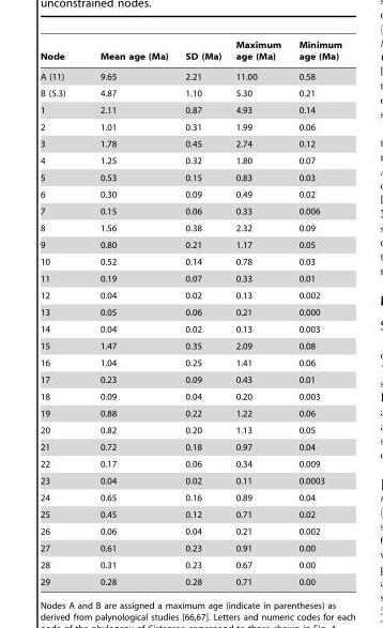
<table><thead><tr><td>Node</td><td>Mean age (Ma)</td><td>SD (Ma)</td><td>Maximum age (Ma)</td><td>Minimum age (Ma)</td></tr></thead><tbody><tr><td>A (11)</td><td>9.65</td><td>2.21</td><td>11.00</td><td>0.58</td></tr><tr><td>B (5.3)</td><td>4.87</td><td>1.10</td><td>5.30</td><td>0.21</td></tr><tr><td>1</td><td>2.11</td><td>0.87</td><td>4.93</td><td>0.14</td></tr><tr><td>2</td><td>1.01</td><td>0.31</td><td>1.99</td><td>0.06</td></tr><tr><td>3</td><td>1.78</td><td>0.45</td><td>2.74</td><td>0.12</td></tr><tr><td>4</td><td>1.25</td><td>0.32</td><td>1.80</td><td>0.07</td></tr><tr><td>5</td><td>0.53</td><td>0.15</td><td>0.83</td><td>0.03</td></tr><tr><td>6</td><td>0.30</td><td>0.09</td><td>0.49</td><td>0.02</td></tr><tr><td>7</td><td>0.15</td><td>0.06</td><td>0.33</td><td>0.006</td></tr><tr><td>8</td><td>1.56</td><td>0.38</td><td>2.32</td><td>0.09</td></tr><tr><td>9</td><td>0.80</td><td>0.21</td><td>1.17</td><td>0.05</td></tr><tr><td>10</td><td>0.52</td><td>0.14</td><td>0.78</td><td>0.03</td></tr><tr><td>11</td><td>0.19</td><td>0.07</td><td>0.33</td><td>0.01</td></tr><tr><td>12</td><td>0.04</td><td>0.02</td><td>0.13</td><td>0.002</td></tr><tr><td>13</td><td>0.05</td><td>0.06</td><td>0.21</td><td>0.000</td></tr><tr><td>14</td><td>0.04</td><td>0.02</td><td>0.13</td><td>0.003</td></tr><tr><td>15</td><td>1.47</td><td>0.35</td><td>2.09</td><td>0.08</td></tr><tr><td>16</td><td>1.04</td><td>0.25</td><td>1.41</td><td>0.06</td></tr><tr><td>17</td><td>0.23</td><td>0.09</td><td>0.43</td><td>0.01</td></tr><tr><td>18</td><td>0.09</td><td>0.04</td><td>0.20</td><td>0.003</td></tr><tr><td>19</td><td>0.88</td><td>0.22</td><td>1.22</td><td>0.06</td></tr><tr><td>20</td><td>0.82</td><td>0.20</td><td>1.13</td><td>0.05</td></tr><tr><td>21</td><td>0.72</td><td>0.18</td><td>0.97</td><td>0.04</td></tr><tr><td>22</td><td>0.17</td><td>0.06</td><td>0.34</td><td>0.009</td></tr><tr><td>23</td><td>0.04</td><td>0.02</td><td>0.11</td><td>0.0003</td></tr><tr><td>24</td><td>0.65</td><td>0.16</td><td>0.89</td><td>0.04</td></tr><tr><td>25</td><td>0.45</td><td>0.12</td><td>0.71</td><td>0.02</td></tr><tr><td>26</td><td>0.06</td><td>0.04</td><td>0.21</td><td>0.002</td></tr><tr><td>27</td><td>0.61</td><td>0.23</td><td>0.91</td><td>0.00</td></tr><tr><td>28</td><td>0.31</td><td>0.23</td><td>0.67</td><td>0.00</td></tr><tr><td>29</td><td>0.28</td><td>0.28</td><td>0.71</td><td>0.00</td></tr></tbody></table>